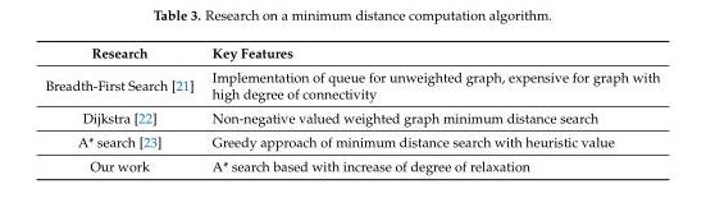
<table><thead><tr><td>Research</td><td>Key Features</td></tr></thead><tbody><tr><td>Breadth-First Search [21]</td><td>Implementation of queue for unweighted graph, expensive for graph with high degree of connectivity</td></tr><tr><td>Dijkstra [22]</td><td>Non-negative valued weighted graph minimum distance search</td></tr><tr><td>A* search [23]</td><td>Greedy approach of minimum distance search with heuristic value</td></tr><tr><td>Our work</td><td>A* search based with increase of degree of relaxation</td></tr></tbody></table>